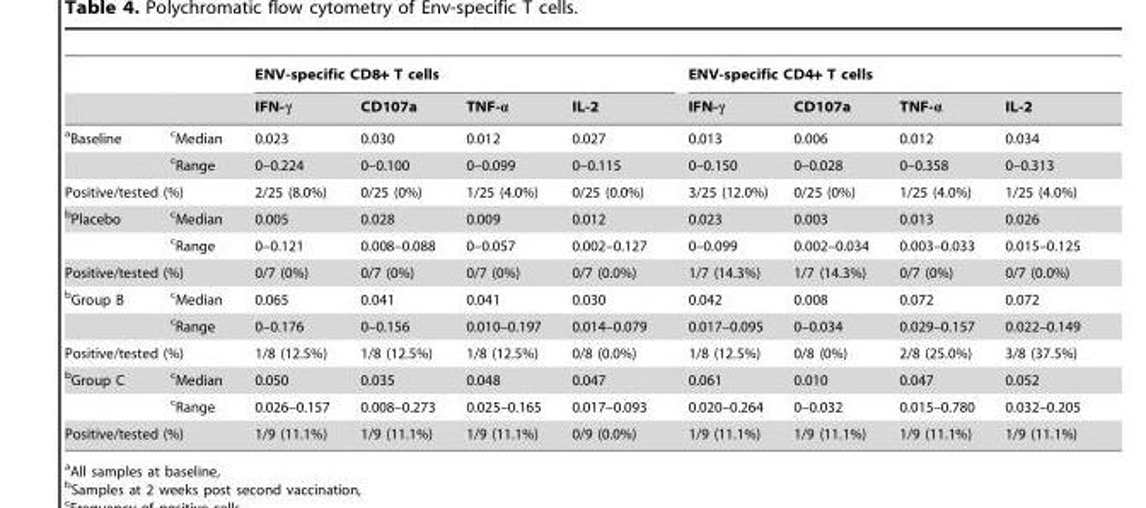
<table><thead><tr><td rowspan="2"></td><td rowspan="2"></td><td colspan="4">ENV-specific CD8+ T cells</td><td colspan="4">ENV-specific CD4+ T cells</td></tr><tr><td>IFN-γ</td><td>CD107a</td><td>TNF-α</td><td>IL-2</td><td>IFN-γ</td><td>CD107a</td><td>TNF-α</td><td>IL-2</td></tr></thead><tbody><tr><td rowspan="2">aBaseline</td><td>cMedian</td><td>0.023</td><td>0.030</td><td>0.012</td><td>0.027</td><td>0.013</td><td>0.006</td><td>0.012</td><td>0.034</td></tr><tr><td>cRange</td><td>0–0.224</td><td>0–0.100</td><td>0–0.099</td><td>0–0.115</td><td>0–0.150</td><td>0–0.028</td><td>0–0.358</td><td>0–0.313</td></tr><tr><td colspan="2">Positive/tested (%)</td><td>2/25 (8.0%)</td><td>0/25 (0%)</td><td>1/25 (4.0%)</td><td>0/25 (0.0%)</td><td>3/25 (12.0%)</td><td>0/25 (0%)</td><td>1/25 (4.0%)</td><td>1/25 (4.0%)</td></tr><tr><td rowspan="2">bPlacebo</td><td>cMedian</td><td>0.005</td><td>0.028</td><td>0.009</td><td>0.012</td><td>0.023</td><td>0.003</td><td>0.013</td><td>0.026</td></tr><tr><td>cRange</td><td>0–0.121</td><td>0.008–0.088</td><td>0–0.057</td><td>0.002–0.127</td><td>0–0.099</td><td>0.002–0.034</td><td>0.003–0.033</td><td>0.015–0.125</td></tr><tr><td colspan="2">Positive/tested (%)</td><td>0/7 (0%)</td><td>0/7 (0%)</td><td>0/7 (0%)</td><td>0/7 (0.0%)</td><td>1/7 (14.3%)</td><td>1/7 (14.3%)</td><td>0/7 (0%)</td><td>0/7 (0.0%)</td></tr><tr><td rowspan="2">bGroup B</td><td>cMedian</td><td>0.065</td><td>0.041</td><td>0.041</td><td>0.030</td><td>0.042</td><td>0.008</td><td>0.072</td><td>0.072</td></tr><tr><td>cRange</td><td>0–0.176</td><td>0–0.156</td><td>0.010–0.197</td><td>0.014–0.079</td><td>0.017–0.095</td><td>0–0.034</td><td>0.029–0.157</td><td>0.022–0.149</td></tr><tr><td colspan="2">Positive/tested (%)</td><td>1/8 (12.5%)</td><td>1/8 (12.5%)</td><td>1/8 (12.5%)</td><td>0/8 (0.0%)</td><td>1/8 (12.5%)</td><td>0/8 (0%)</td><td>2/8 (25.0%)</td><td>3/8 (37.5%)</td></tr><tr><td rowspan="2">bGroup C</td><td>cMedian</td><td>0.050</td><td>0.035</td><td>0.048</td><td>0.047</td><td>0.061</td><td>0.010</td><td>0.047</td><td>0.052</td></tr><tr><td>cRange</td><td>0.026–0.157</td><td>0.008–0.273</td><td>0.025–0.165</td><td>0.017–0.093</td><td>0.020–0.264</td><td>0–0.032</td><td>0.015–0.780</td><td>0.032–0.205</td></tr><tr><td colspan="2">Positive/tested (%)</td><td>1/9 (11.1%)</td><td>1/9 (11.1%)</td><td>1/9 (11.1%)</td><td>0/9 (0.0%)</td><td>1/9 (11.1%)</td><td>1/9 (11.1%)</td><td>1/9 (11.1%)</td><td>1/9 (11.1%)</td></tr></tbody></table>